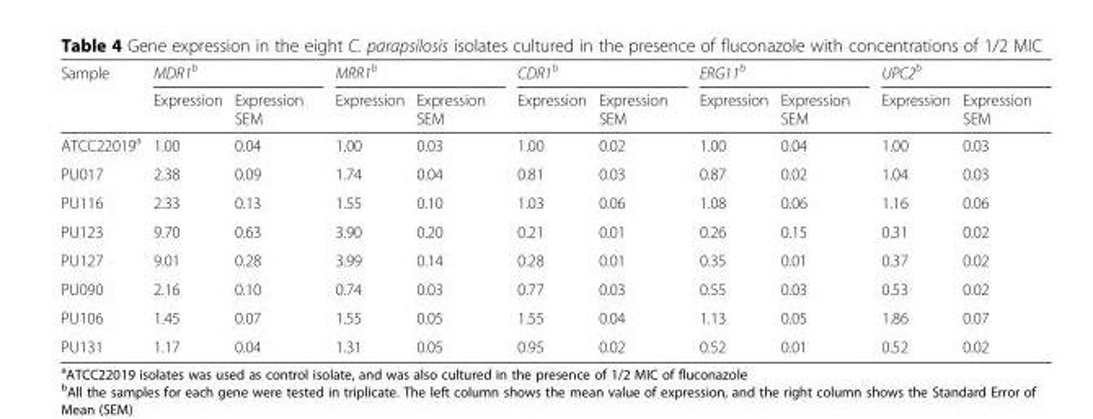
<table><thead><tr><td rowspan="2">Sample</td><td colspan="2">MDR1<sup>b</sup></td><td colspan="2">MRR1<sup>b</sup></td><td colspan="2">CDR1<sup>b</sup></td><td colspan="2">ERG11<sup>b</sup></td><td colspan="2">UPC2<sup>b</sup></td></tr><tr><td>Expression</td><td>Expression SEM</td><td>Expression</td><td>Expression SEM</td><td>Expression</td><td>Expression SEM</td><td>Expression</td><td>Expression SEM</td><td>Expression</td><td>Expression SEM</td></tr></thead><tbody><tr><td>ATCC22019<sup>a</sup></td><td>1.00</td><td>0.04</td><td>1.00</td><td>0.03</td><td>1.00</td><td>0.02</td><td>1.00</td><td>0.04</td><td>1.00</td><td>0.03</td></tr><tr><td>PU017</td><td>2.38</td><td>0.09</td><td>1.74</td><td>0.04</td><td>0.81</td><td>0.03</td><td>0.87</td><td>0.02</td><td>1.04</td><td>0.03</td></tr><tr><td>PU116</td><td>2.33</td><td>0.13</td><td>1.55</td><td>0.10</td><td>1.03</td><td>0.06</td><td>1.08</td><td>0.06</td><td>1.16</td><td>0.06</td></tr><tr><td>PU123</td><td>9.70</td><td>0.63</td><td>3.90</td><td>0.20</td><td>0.21</td><td>0.01</td><td>0.26</td><td>0.15</td><td>0.31</td><td>0.02</td></tr><tr><td>PU127</td><td>9.01</td><td>0.28</td><td>3.99</td><td>0.14</td><td>0.28</td><td>0.01</td><td>0.35</td><td>0.01</td><td>0.37</td><td>0.02</td></tr><tr><td>PU090</td><td>2.16</td><td>0.10</td><td>0.74</td><td>0.03</td><td>0.77</td><td>0.03</td><td>0.55</td><td>0.03</td><td>0.53</td><td>0.02</td></tr><tr><td>PU106</td><td>1.45</td><td>0.07</td><td>1.55</td><td>0.05</td><td>1.55</td><td>0.04</td><td>1.13</td><td>0.05</td><td>1.86</td><td>0.07</td></tr><tr><td>PU131</td><td>1.17</td><td>0.04</td><td>1.31</td><td>0.05</td><td>0.95</td><td>0.02</td><td>0.52</td><td>0.01</td><td>0.52</td><td>0.02</td></tr></tbody></table>